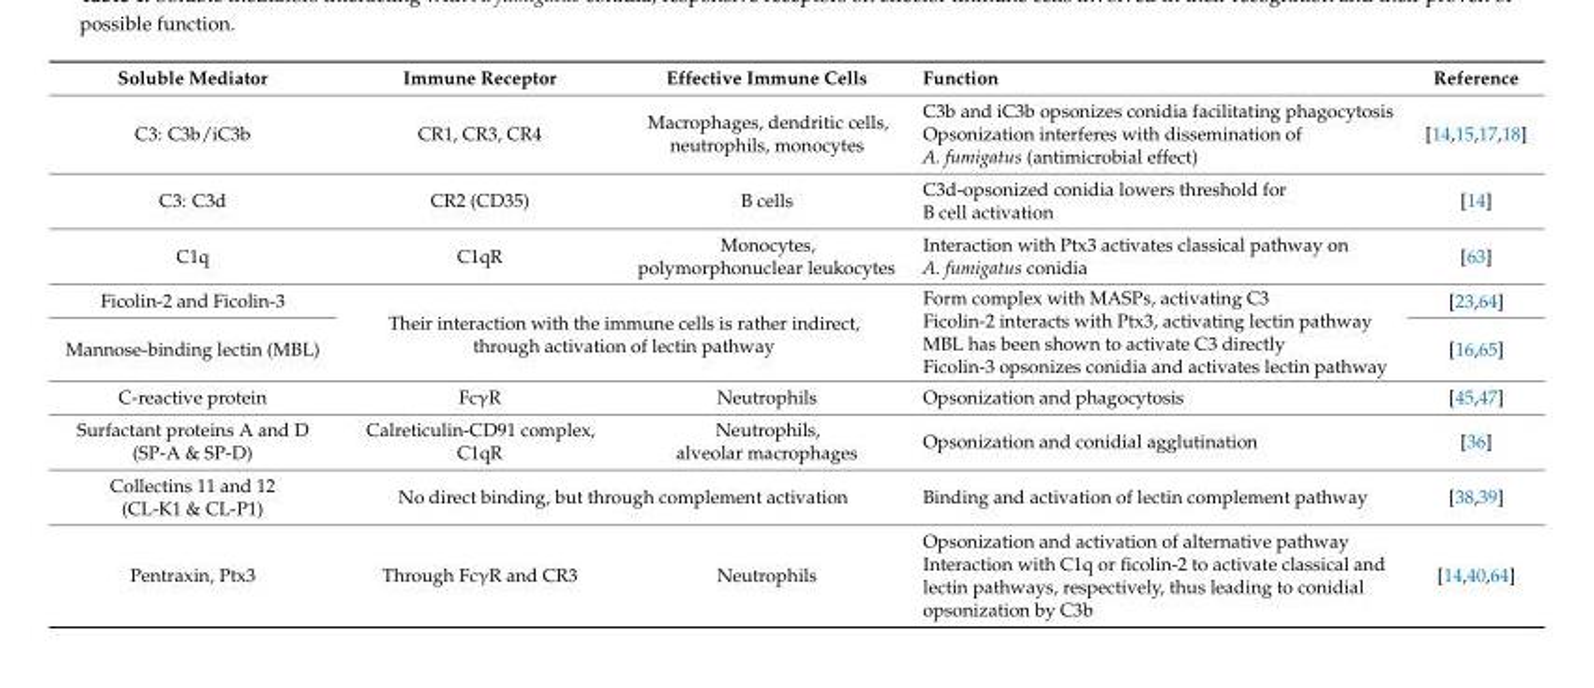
<table><thead><tr><td>Soluble Mediator</td><td>Immune Receptor</td><td>Effective Immune Cells</td><td>Function</td><td>Reference</td></tr></thead><tbody><tr><td>C3: C3b/iC3b</td><td>CR1, CR3, CR4</td><td>Macrophages, dendritic cells, neutrophils, monocytes</td><td>C3b and iC3b opsonizes conidia facilitating phagocytosis Opsonization interferes with dissemination of A. fumigatus (antimicrobial effect)</td><td>[14,15,17,18]</td></tr><tr><td>C3: C3d</td><td>CR2 (CD35)</td><td>B cells</td><td>C3d-opsonized conidia lowers threshold for B cell activation</td><td>[14]</td></tr><tr><td>C1q</td><td>C1qR</td><td>Monocytes, polymorphonuclear leukocytes</td><td>Interaction with Ptx3 activates classical pathway on A. fumigatus conidia</td><td>[63]</td></tr><tr><td>Ficolin-2 and Ficolin-3</td><td rowspan="2" colspan="2">Their interaction with the immune cells is rather indirect, through activation of lectin pathway</td><td rowspan="2">Form complex with MASPs, activating C3 Ficolin-2 interacts with Ptx3, activating lectin pathway MBL has been shown to activate C3 directly Ficolin-3 opsonizes conidia and activates lectin pathway</td><td>[23,64]</td></tr><tr><td>Mannose-binding lectin (MBL)</td><td>[16,65]</td></tr><tr><td>C-reactive protein</td><td>FcγR</td><td>Neutrophils</td><td>Opsonization and phagocytosis</td><td>[45,47]</td></tr><tr><td>Surfactant proteins A and D (SP-A &amp; SP-D)</td><td>Calreticulin-CD91 complex, C1qR</td><td>Neutrophils, alveolar macrophages</td><td>Opsonization and conidial agglutination</td><td>[36]</td></tr><tr><td>Collectins 11 and 12 (CL-K1 &amp; CL-P1)</td><td colspan="2">No direct binding, but through complement activation</td><td>Binding and activation of lectin complement pathway</td><td>[38,39]</td></tr><tr><td>Pentraxin, Ptx3</td><td>Through FcγR and CR3</td><td>Neutrophils</td><td>Opsonization and activation of alternative pathway Interaction with C1q or ficolin-2 to activate classical and lectin pathways, respectively, thus leading to conidial opsonization by C3b</td><td>[14,40,64]</td></tr></tbody></table>